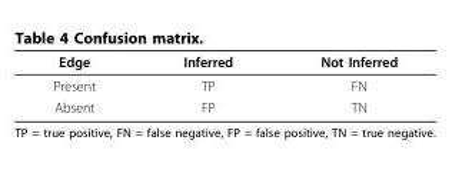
<table><thead><tr><td>Edge</td><td>Inferred</td><td>Not Inferred</td></tr></thead><tbody><tr><td>Present</td><td>TP</td><td>FN</td></tr><tr><td>Absent</td><td>FP</td><td>TN</td></tr></tbody></table>